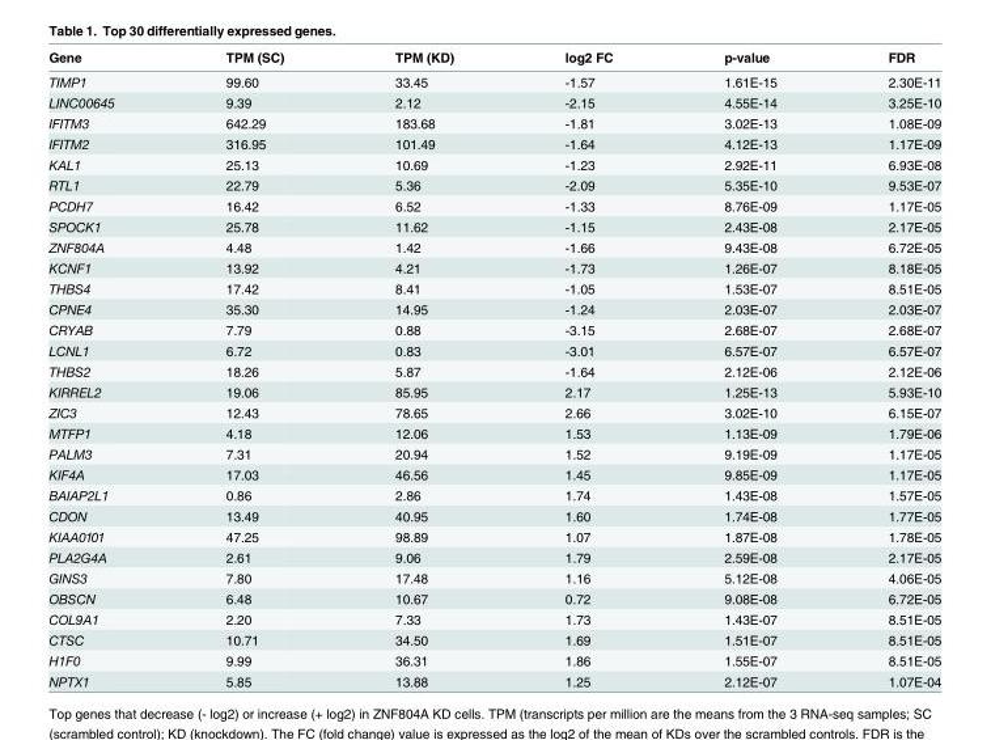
<table><thead><tr><td>Gene</td><td>TPM (SC)</td><td>TPM (KD)</td><td>log2 FC</td><td>p-value</td><td>FDR</td></tr></thead><tbody><tr><td>TIMP1</td><td>99.60</td><td>33.45</td><td>-1.57</td><td>1.61E-15</td><td>2.30E-11</td></tr><tr><td>LINC00645</td><td>9.39</td><td>2.12</td><td>-2.15</td><td>4.55E-14</td><td>3.25E-10</td></tr><tr><td>IFITM3</td><td>642.29</td><td>183.68</td><td>-1.81</td><td>3.02E-13</td><td>1.08E-09</td></tr><tr><td>IFITM2</td><td>316.95</td><td>101.49</td><td>-1.64</td><td>4.12E-13</td><td>1.17E-09</td></tr><tr><td>KAL1</td><td>25.13</td><td>10.69</td><td>-1.23</td><td>2.92E-11</td><td>6.93E-08</td></tr><tr><td>RTL1</td><td>22.79</td><td>5.36</td><td>-2.09</td><td>5.35E-10</td><td>9.53E-07</td></tr><tr><td>PCDH7</td><td>16.42</td><td>6.52</td><td>-1.33</td><td>8.76E-09</td><td>1.17E-05</td></tr><tr><td>SPOCK1</td><td>25.78</td><td>11.62</td><td>-1.15</td><td>2.43E-08</td><td>2.17E-05</td></tr><tr><td>ZNF804A</td><td>4.48</td><td>1.42</td><td>-1.66</td><td>9.43E-08</td><td>6.72E-05</td></tr><tr><td>KCNF1</td><td>13.92</td><td>4.21</td><td>-1.73</td><td>1.26E-07</td><td>8.18E-05</td></tr><tr><td>THBS4</td><td>17.42</td><td>8.41</td><td>-1.05</td><td>1.53E-07</td><td>8.51E-05</td></tr><tr><td>CPNE4</td><td>35.30</td><td>14.95</td><td>-1.24</td><td>2.03E-07</td><td>2.03E-07</td></tr><tr><td>CRYAB</td><td>7.79</td><td>0.88</td><td>-3.15</td><td>2.68E-07</td><td>2.68E-07</td></tr><tr><td>LCNL1</td><td>6.72</td><td>0.83</td><td>-3.01</td><td>6.57E-07</td><td>6.57E-07</td></tr><tr><td>THBS2</td><td>18.26</td><td>5.87</td><td>-1.64</td><td>2.12E-06</td><td>2.12E-06</td></tr><tr><td>KIRREL2</td><td>19.06</td><td>85.95</td><td>2.17</td><td>1.25E-13</td><td>5.93E-10</td></tr><tr><td>ZIC3</td><td>12.43</td><td>78.65</td><td>2.66</td><td>3.02E-10</td><td>6.15E-07</td></tr><tr><td>MTFP1</td><td>4.18</td><td>12.06</td><td>1.53</td><td>1.13E-09</td><td>1.79E-06</td></tr><tr><td>PALM3</td><td>7.31</td><td>20.94</td><td>1.52</td><td>9.19E-09</td><td>1.17E-05</td></tr><tr><td>KIF4A</td><td>17.03</td><td>46.56</td><td>1.45</td><td>9.85E-09</td><td>1.17E-05</td></tr><tr><td>BAIAP2L1</td><td>0.86</td><td>2.86</td><td>1.74</td><td>1.43E-08</td><td>1.57E-05</td></tr><tr><td>CDON</td><td>13.49</td><td>40.95</td><td>1.60</td><td>1.74E-08</td><td>1.77E-05</td></tr><tr><td>KIAA0101</td><td>47.25</td><td>98.89</td><td>1.07</td><td>1.87E-08</td><td>1.78E-05</td></tr><tr><td>PLA2G4A</td><td>2.61</td><td>9.06</td><td>1.79</td><td>2.59E-08</td><td>2.17E-05</td></tr><tr><td>GINS3</td><td>7.80</td><td>17.48</td><td>1.16</td><td>5.12E-08</td><td>4.06E-05</td></tr><tr><td>OBSCN</td><td>6.48</td><td>10.67</td><td>0.72</td><td>9.08E-08</td><td>6.72E-05</td></tr><tr><td>COL9A1</td><td>2.20</td><td>7.33</td><td>1.73</td><td>1.43E-07</td><td>8.51E-05</td></tr><tr><td>CTSC</td><td>10.71</td><td>34.50</td><td>1.69</td><td>1.51E-07</td><td>8.51E-05</td></tr><tr><td>H1F0</td><td>9.99</td><td>36.31</td><td>1.86</td><td>1.55E-07</td><td>8.51E-05</td></tr><tr><td>NPTX1</td><td>5.85</td><td>13.88</td><td>1.25</td><td>2.12E-07</td><td>1.07E-04</td></tr></tbody></table>